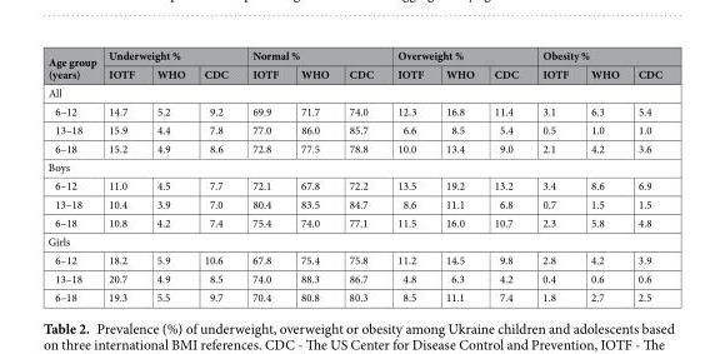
<table><thead><tr><td rowspan="2">Age group (years)</td><td colspan="3">Underweight %</td><td colspan="3">Normal %</td><td colspan="3">Overweight %</td><td colspan="3">Obesity %</td></tr><tr><td>IOTF</td><td>WHO</td><td>CDC</td><td>IOTF</td><td>WHO</td><td>CDC</td><td>IOTF</td><td>WHO</td><td>CDC</td><td>IOTF</td><td>WHO</td><td>CDC</td></tr></thead><tbody><tr><td colspan="13">All</td></tr><tr><td>6–12</td><td>14.7</td><td>5.2</td><td>9.2</td><td>69.9</td><td>71.7</td><td>74.0</td><td>12.3</td><td>16.8</td><td>11.4</td><td>3.1</td><td>6.3</td><td>5.4</td></tr><tr><td>13–18</td><td>15.9</td><td>4.4</td><td>7.8</td><td>77.0</td><td>86.0</td><td>85.7</td><td>6.6</td><td>8.5</td><td>5.4</td><td>0.5</td><td>1.0</td><td>1.0</td></tr><tr><td>6–18</td><td>15.2</td><td>4.9</td><td>8.6</td><td>72.8</td><td>77.5</td><td>78.8</td><td>10.0</td><td>13.4</td><td>9.0</td><td>2.1</td><td>4.2</td><td>3.6</td></tr><tr><td colspan="13">Boys</td></tr><tr><td>6–12</td><td>11.0</td><td>4.5</td><td>7.7</td><td>72.1</td><td>67.8</td><td>72.2</td><td>13.5</td><td>19.2</td><td>13.2</td><td>3.4</td><td>8.6</td><td>6.9</td></tr><tr><td>13–18</td><td>10.4</td><td>3.9</td><td>7.0</td><td>80.4</td><td>83.5</td><td>84.7</td><td>8.6</td><td>11.1</td><td>6.8</td><td>0.7</td><td>1.5</td><td>1.5</td></tr><tr><td>6–18</td><td>10.8</td><td>4.2</td><td>7.4</td><td>75.4</td><td>74.0</td><td>77.1</td><td>11.5</td><td>16.0</td><td>10.7</td><td>2.3</td><td>5.8</td><td>4.8</td></tr><tr><td colspan="13">Girls</td></tr><tr><td>6–12</td><td>18.2</td><td>5.9</td><td>10.6</td><td>67.8</td><td>75.4</td><td>75.8</td><td>11.2</td><td>14.5</td><td>9.8</td><td>2.8</td><td>4.2</td><td>3.9</td></tr><tr><td>13–18</td><td>20.7</td><td>4.9</td><td>8.5</td><td>74.0</td><td>88.3</td><td>86.7</td><td>4.8</td><td>6.3</td><td>4.2</td><td>0.4</td><td>0.6</td><td>0.6</td></tr><tr><td>6–18</td><td>19.3</td><td>5.5</td><td>9.7</td><td>70.4</td><td>80.8</td><td>80.3</td><td>8.5</td><td>11.1</td><td>7.4</td><td>1.8</td><td>2.7</td><td>2.5</td></tr></tbody></table>